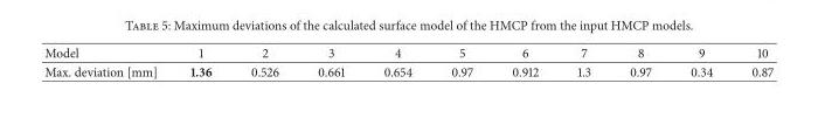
<table><thead><tr><td>Model</td><td>1</td><td>2</td><td>3</td><td>4</td><td>5</td><td>6</td><td>7</td><td>8</td><td>9</td><td>10</td></tr></thead><tbody><tr><td>Max. deviation [mm]</td><td>1.36</td><td>0.526</td><td>0.661</td><td>0.654</td><td>0.97</td><td>0.912</td><td>1.3</td><td>0.97</td><td>0.34</td><td>0.87</td></tr></tbody></table>